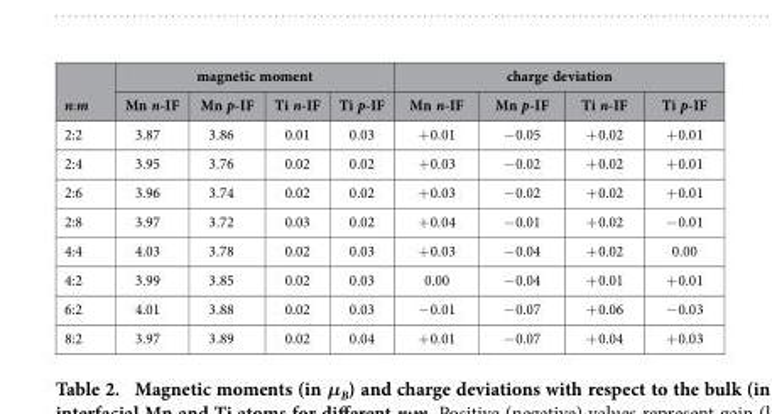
<table><thead><tr><td rowspan="2">n:m</td><td colspan="4">magnetic moment</td><td colspan="4">charge deviation</td></tr><tr><td>Mn n-IF</td><td>Mn p-IF</td><td>Ti n-IF</td><td>Ti p-IF</td><td>Mn n-IF</td><td>Mn p-IF</td><td>Ti n-IF</td><td>Ti p-IF</td></tr></thead><tbody><tr><td>2:2</td><td>3.87</td><td>3.86</td><td>0.01</td><td>0.03</td><td>+ 0.01</td><td>− 0.05</td><td>+ 0.02</td><td>+ 0.01</td></tr><tr><td>2:4</td><td>3.95</td><td>3.76</td><td>0.02</td><td>0.02</td><td>+ 0.03</td><td>− 0.02</td><td>+ 0.02</td><td>+ 0.01</td></tr><tr><td>2:6</td><td>3.96</td><td>3.74</td><td>0.02</td><td>0.02</td><td>+ 0.03</td><td>− 0.02</td><td>+ 0.02</td><td>+ 0.01</td></tr><tr><td>2:8</td><td>3.97</td><td>3.72</td><td>0.03</td><td>0.02</td><td>+ 0.04</td><td>− 0.01</td><td>+ 0.02</td><td>− 0.01</td></tr><tr><td>4:4</td><td>4.03</td><td>3.78</td><td>0.02</td><td>0.03</td><td>+ 0.03</td><td>− 0.04</td><td>+ 0.02</td><td>0.00</td></tr><tr><td>4:2</td><td>3.99</td><td>3.85</td><td>0.02</td><td>0.03</td><td>0.00</td><td>− 0.04</td><td>+ 0.01</td><td>+ 0.01</td></tr><tr><td>6:2</td><td>4.01</td><td>3.88</td><td>0.02</td><td>0.03</td><td>− 0.01</td><td>− 0.07</td><td>+ 0.06</td><td>− 0.03</td></tr><tr><td>8:2</td><td>3.97</td><td>3.89</td><td>0.02</td><td>0.04</td><td>+ 0.01</td><td>− 0.07</td><td>+ 0.04</td><td>+ 0.03</td></tr></tbody></table>